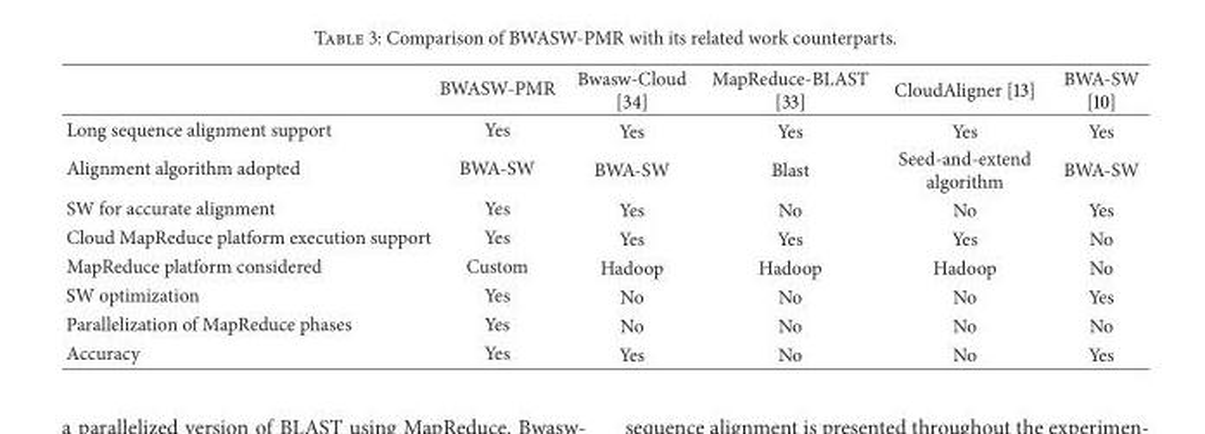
<table><thead><tr><td></td><td>BWASW-PMR</td><td>Bwasw-Cloud [34]</td><td>MapReduce-BLAST [33]</td><td>CloudAligner [13]</td><td>BWA-SW [10]</td></tr></thead><tbody><tr><td>Long sequence alignment support</td><td>Yes</td><td>Yes</td><td>Yes</td><td>Yes</td><td>Yes</td></tr><tr><td>Alignment algorithm adopted</td><td>BWA-SW</td><td>BWA-SW</td><td>Blast</td><td>Seed-and-extend algorithm</td><td>BWA-SW</td></tr><tr><td>SW for accurate alignment</td><td>Yes</td><td>Yes</td><td>No</td><td>No</td><td>Yes</td></tr><tr><td>Cloud MapReduce platform execution support</td><td>Yes</td><td>Yes</td><td>Yes</td><td>Yes</td><td>No</td></tr><tr><td>MapReduce platform considered</td><td>Custom</td><td>Hadoop</td><td>Hadoop</td><td>Hadoop</td><td>No</td></tr><tr><td>SW optimization</td><td>Yes</td><td>No</td><td>No</td><td>No</td><td>Yes</td></tr><tr><td>Parallelization of MapReduce phases</td><td>Yes</td><td>No</td><td>No</td><td>No</td><td>No</td></tr><tr><td>Accuracy</td><td>Yes</td><td>Yes</td><td>No</td><td>No</td><td>Yes</td></tr></tbody></table>